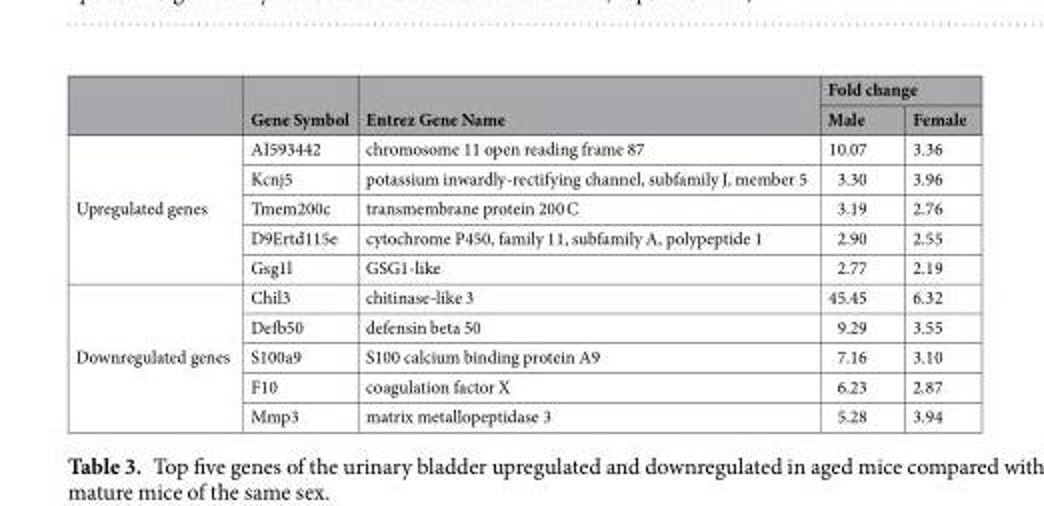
<table><thead><tr><td rowspan="2"></td><td rowspan="2">Gene Symbol</td><td rowspan="2">Entrez Gene Name</td><td colspan="2">Fold change</td></tr><tr><td>Male</td><td>Female</td></tr></thead><tbody><tr><td rowspan="5">Upregulated genes</td><td>AI593442</td><td>chromosome 11 open reading frame 87</td><td>10.07</td><td>3.36</td></tr><tr><td>Kcnj5</td><td>potassium inwardly-rectifying channel, subfamily J, member 5</td><td>3.30</td><td>3.96</td></tr><tr><td>Tmem200c</td><td>transmembrane protein 200 C</td><td>3.19</td><td>2.76</td></tr><tr><td>D9Ertd115e</td><td>cytochrome P450, family 11, subfamily A, polypeptide 1</td><td>2.90</td><td>2.55</td></tr><tr><td>Gsg1l</td><td>GSG1-like</td><td>2.77</td><td>2.19</td></tr><tr><td rowspan="5">Downregulated genes</td><td>Chil3</td><td>chitinase-like 3</td><td>45.45</td><td>6.32</td></tr><tr><td>Defb50</td><td>defensin beta 50</td><td>9.29</td><td>3.55</td></tr><tr><td>S100a9</td><td>S100 calcium binding protein A9</td><td>7.16</td><td>3.10</td></tr><tr><td>F10</td><td>coagulation factor X</td><td>6.23</td><td>2.87</td></tr><tr><td>Mmp3</td><td>matrix metallopeptidase 3</td><td>5.28</td><td>3.94</td></tr></tbody></table>